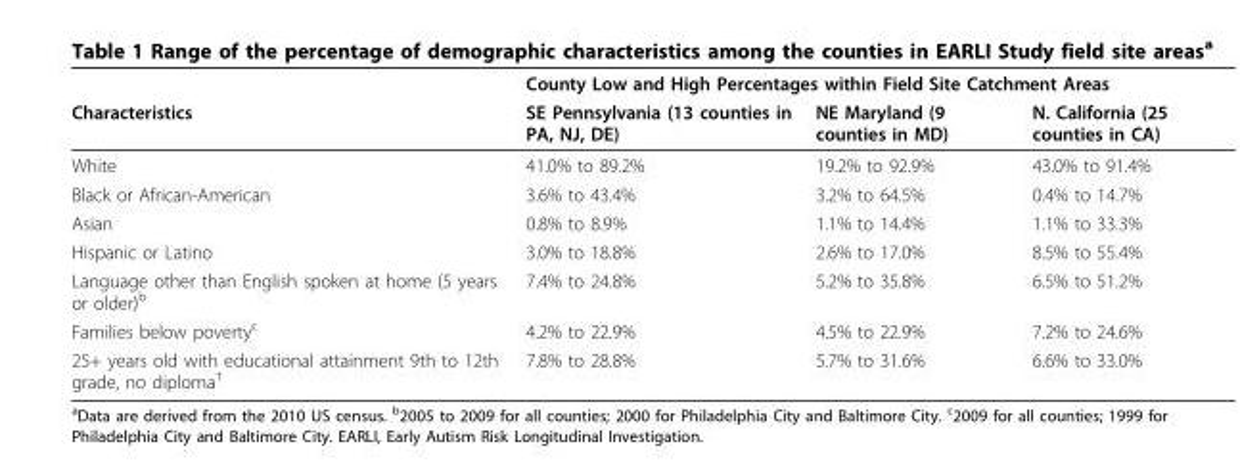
<table><thead><tr><td rowspan="2">Characteristics</td><td colspan="3">County Low and High Percentages within Field Site Catchment Areas</td></tr><tr><td>SE Pennsylvania (13 counties in PA, NJ, DE)</td><td>NE Maryland (9 counties in MD)</td><td>N. California (25 counties in CA)</td></tr></thead><tbody><tr><td>White</td><td>41.0% to 89.2%</td><td>19.2% to 92.9%</td><td>43.0% to 91.4%</td></tr><tr><td>Black or African-American</td><td>3.6% to 43.4%</td><td>3.2% to 64.5%</td><td>0.4% to 14.7%</td></tr><tr><td>Asian</td><td>0.8% to 8.9%</td><td>1.1% to 14.4%</td><td>1.1% to 33.3%</td></tr><tr><td>Hispanic or Latino</td><td>3.0% to 18.8%</td><td>2.6% to 17.0%</td><td>8.5% to 55.4%</td></tr><tr><td>Language other than English spoken at home (5 years or older)<sup>b</sup></td><td>7.4% to 24.8%</td><td>5.2% to 35.8%</td><td>6.5% to 51.2%</td></tr><tr><td>Families below poverty<sup>c</sup></td><td>4.2% to 22.9%</td><td>4.5% to 22.9%</td><td>7.2% to 24.6%</td></tr><tr><td>25+ years old with educational attainment 9th to 12th grade, no diploma<sup>†</sup></td><td>7.8% to 28.8%</td><td>5.7% to 31.6%</td><td>6.6% to 33.0%</td></tr></tbody></table>